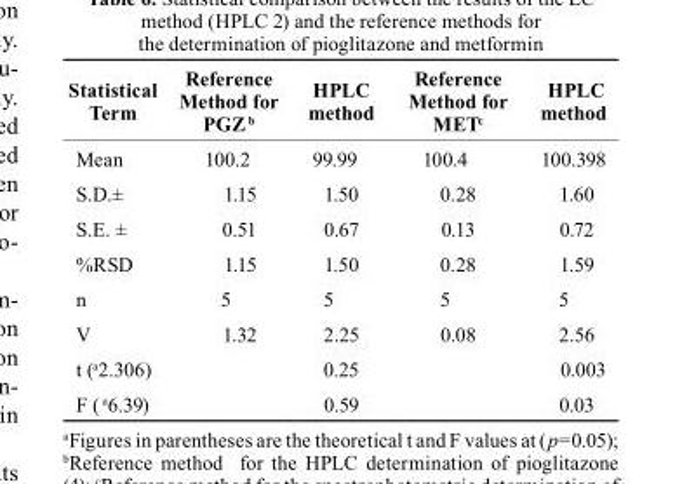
<table><thead><tr><td>statistical term</td><td>reference Method for PGZ <sup>b</sup></td><td>HPLc method</td><td>reference Method for MET<sup>c</sup></td><td>HPLc method</td></tr></thead><tbody><tr><td>Mean</td><td>100.2</td><td>99.99</td><td>100.4</td><td>100.398</td></tr><tr><td>S.D.±</td><td>1.15</td><td>1.50</td><td>0.28</td><td>1.60</td></tr><tr><td>S.E. ±</td><td>0.51</td><td>0.67</td><td>0.13</td><td>0.72</td></tr><tr><td>%RSD</td><td>1.15</td><td>1.50</td><td>0.28</td><td>1.59</td></tr><tr><td>n</td><td>5</td><td>5</td><td>5</td><td>5</td></tr><tr><td>V</td><td>1.32</td><td>2.25</td><td>0.08</td><td>2.56</td></tr><tr><td>t (a2.306)</td><td></td><td>0.25</td><td></td><td>0.003</td></tr><tr><td>F ( a6.39)</td><td></td><td>0.59</td><td></td><td>0.03</td></tr></tbody></table>